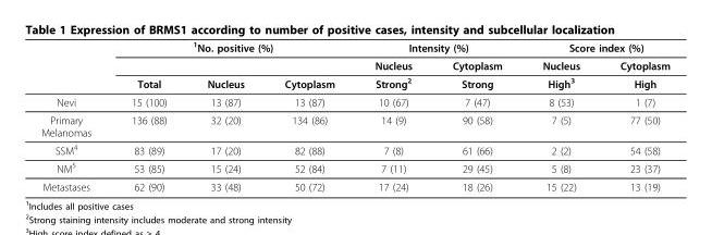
<table><thead><tr><td rowspan="3"></td><td colspan="3"><sup>1</sup>No. positive (%)</td><td colspan="2">Intensity (%)</td><td colspan="2">Score index (%)</td></tr><tr><td rowspan="2">Total</td><td rowspan="2">Nucleus</td><td rowspan="2">Cytoplasm</td><td rowspan="2">Nucleus Strong<sup>2</sup></td><td rowspan="2">Cytoplasm Strong</td><td rowspan="2">Nucleus High<sup>3</sup></td><td rowspan="2">Cytoplasm High</td></tr><tr></tr></thead><tbody><tr><td>Nevi</td><td>15 (100)</td><td>13 (87)</td><td>13 (87)</td><td>10 (67)</td><td>7 (47)</td><td>8 (53)</td><td>1 (7)</td></tr><tr><td>Primary Melanomas</td><td>136 (88)</td><td>32 (20)</td><td>134 (86)</td><td>14 (9)</td><td>90 (58)</td><td>7 (5)</td><td>77 (50)</td></tr><tr><td>SSM<sup>4</sup></td><td>83 (89)</td><td>17 (20)</td><td>82 (88)</td><td>7 (8)</td><td>61 (66)</td><td>2 (2)</td><td>54 (58)</td></tr><tr><td>NM<sup>5</sup></td><td>53 (85)</td><td>15 (24)</td><td>52 (84)</td><td>7 (11)</td><td>29 (45)</td><td>5 (8)</td><td>23 (37)</td></tr><tr><td>Metastases</td><td>62 (90)</td><td>33 (48)</td><td>50 (72)</td><td>17 (24)</td><td>18 (26)</td><td>15 (22)</td><td>13 (19)</td></tr></tbody></table>